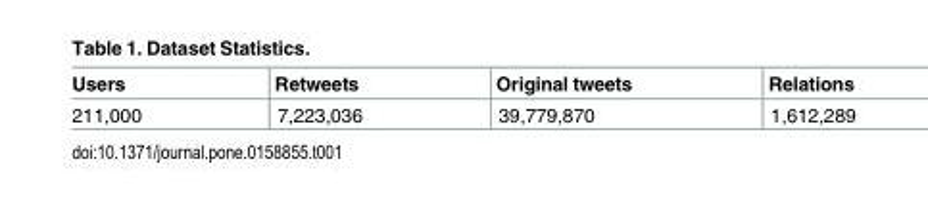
<table><thead><tr><td>Users</td><td>Retweets</td><td>Original tweets</td><td>Relations</td></tr></thead><tbody><tr><td>211,000</td><td>7,223,036</td><td>39,779,870</td><td>1,612,289</td></tr></tbody></table>